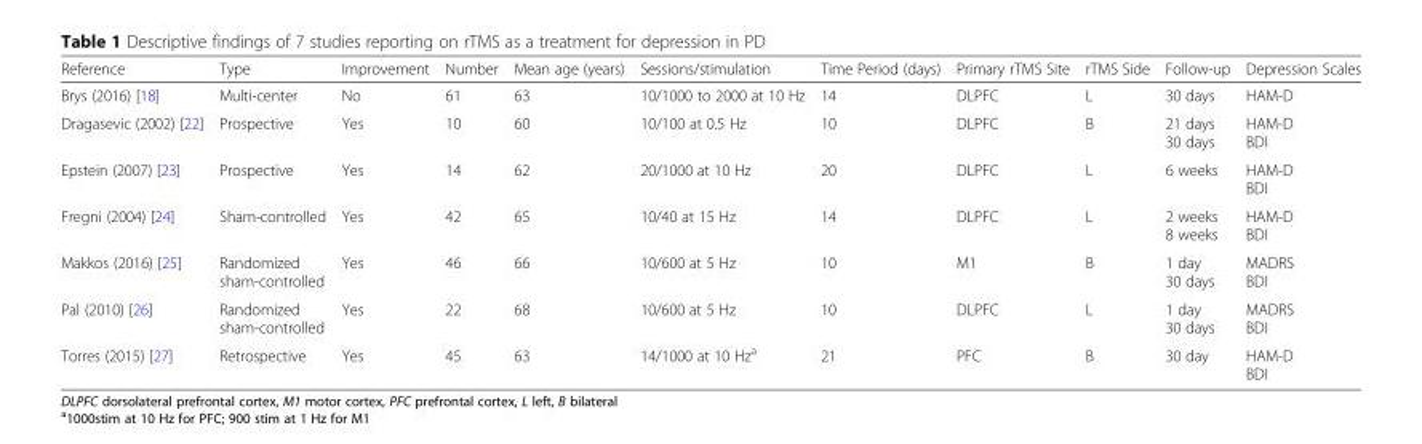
<table><thead><tr><td>Reference</td><td>Type</td><td>Improvement</td><td>Number</td><td>Mean age (years)</td><td>Sessions/stimulation</td><td>Time Period (days)</td><td>Primary rTMS Site</td><td>rTMS Side</td><td>Follow-up</td><td>Depression Scales</td></tr></thead><tbody><tr><td>Brys (2016) [18]</td><td>Multi-center</td><td>No</td><td>61</td><td>63</td><td>10/1000 to 2000 at 10 Hz</td><td>14</td><td>DLPFC</td><td>L</td><td>30 days</td><td>HAM-D</td></tr><tr><td>Dragasevic (2002) [22]</td><td>Prospective</td><td>Yes</td><td>10</td><td>60</td><td>10/100 at 0.5 Hz</td><td>10</td><td>DLPFC</td><td>B</td><td>21 days 30 days</td><td>HAM-D BDI</td></tr><tr><td>Epstein (2007) [23]</td><td>Prospective</td><td>Yes</td><td>14</td><td>62</td><td>20/1000 at 10 Hz</td><td>20</td><td>DLPFC</td><td>L</td><td>6 weeks</td><td>HAM-D BDI</td></tr><tr><td>Fregni (2004) [24]</td><td>Sham-controlled</td><td>Yes</td><td>42</td><td>65</td><td>10/40 at 15 Hz</td><td>14</td><td>DLPFC</td><td>L</td><td>2 weeks 8 weeks</td><td>HAM-D BDI</td></tr><tr><td>Makkos (2016) [25]</td><td>Randomized sham-controlled</td><td>Yes</td><td>46</td><td>66</td><td>10/600 at 5 Hz</td><td>10</td><td>M1</td><td>B</td><td>1 day 30 days</td><td>MADRS BDI</td></tr><tr><td>Pal (2010) [26]</td><td>Randomized sham-controlled</td><td>Yes</td><td>22</td><td>68</td><td>10/600 at 5 Hz</td><td>10</td><td>DLPFC</td><td>L</td><td>1 day 30 days</td><td>MADRS BDI</td></tr><tr><td>Torres (2015) [27]</td><td>Retrospective</td><td>Yes</td><td>45</td><td>63</td><td>14/1000 at 10 Hz<sup>a</sup></td><td>21</td><td>PFC</td><td>B</td><td>30 day</td><td>HAM-D BDI</td></tr></tbody></table>